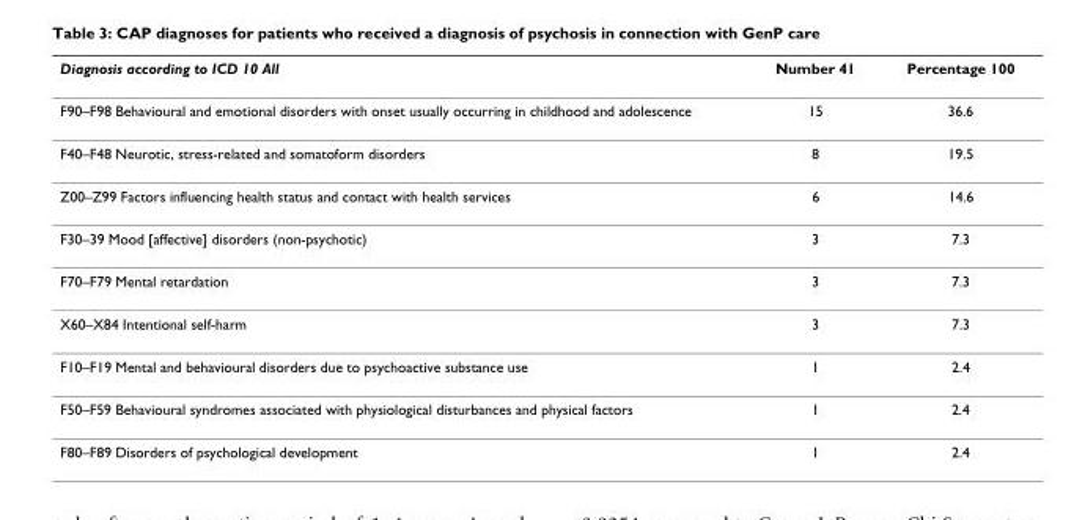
<table><thead><tr><td>Diagnosis according to ICD 10 All</td><td>Number 41</td><td>Percentage 100</td></tr></thead><tbody><tr><td>F90–F98 Behavioural and emotional disorders with onset usually occurring in childhood and adolescence</td><td>15</td><td>36.6</td></tr><tr><td>F40–F48 Neurotic, stress-related and somatoform disorders</td><td>8</td><td>19.5</td></tr><tr><td>Z00–Z99 Factors influencing health status and contact with health services</td><td>6</td><td>14.6</td></tr><tr><td>F30–39 Mood [affective] disorders (non-psychotic)</td><td>3</td><td>7.3</td></tr><tr><td>F70–F79 Mental retardation</td><td>3</td><td>7.3</td></tr><tr><td>X60–X84 Intentional self-harm</td><td>3</td><td>7.3</td></tr><tr><td>F10–F19 Mental and behavioural disorders due to psychoactive substance use</td><td>1</td><td>2.4</td></tr><tr><td>F50–F59 Behavioural syndromes associated with physiological disturbances and physical factors</td><td>1</td><td>2.4</td></tr><tr><td>F80–F89 Disorders of psychological development</td><td>1</td><td>2.4</td></tr></tbody></table>